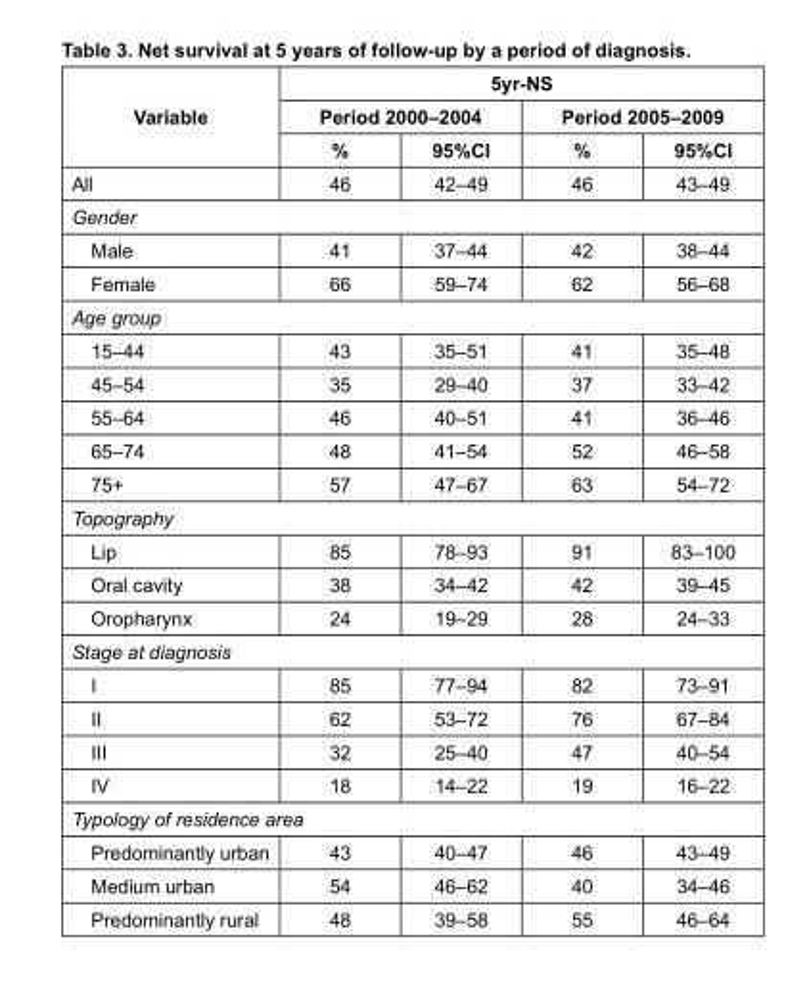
<table><thead><tr><td rowspan="3">Variable</td><td colspan="4">5yr-NS</td></tr><tr><td colspan="2">Period 2000–2004</td><td colspan="2">Period 2005–2009</td></tr><tr><td>%</td><td>95%CI</td><td>%</td><td>95%CI</td></tr></thead><tbody><tr><td>All</td><td>46</td><td>42–49</td><td>46</td><td>43–49</td></tr><tr><td colspan="5">Gender</td></tr><tr><td>Male</td><td>41</td><td>37–44</td><td>42</td><td>38–44</td></tr><tr><td>Female</td><td>66</td><td>59–74</td><td>62</td><td>56–68</td></tr><tr><td colspan="5">Age group</td></tr><tr><td>15–44</td><td>43</td><td>35–51</td><td>41</td><td>35–48</td></tr><tr><td>45–54</td><td>35</td><td>29–40</td><td>37</td><td>33–42</td></tr><tr><td>55–64</td><td>46</td><td>40–51</td><td>41</td><td>36–46</td></tr><tr><td>65–74</td><td>48</td><td>41–54</td><td>52</td><td>46–58</td></tr><tr><td>75+</td><td>57</td><td>47–67</td><td>63</td><td>54–72</td></tr><tr><td colspan="5">Topography</td></tr><tr><td>Lip</td><td>85</td><td>78–93</td><td>91</td><td>83–100</td></tr><tr><td>Oral cavity</td><td>38</td><td>34–42</td><td>42</td><td>39–45</td></tr><tr><td>Oropharynx</td><td>24</td><td>19–29</td><td>28</td><td>24–33</td></tr><tr><td colspan="5">Stage at diagnosis</td></tr><tr><td>I</td><td>85</td><td>77–94</td><td>82</td><td>73–91</td></tr><tr><td>II</td><td>62</td><td>53–72</td><td>76</td><td>67–84</td></tr><tr><td>III</td><td>32</td><td>25–40</td><td>47</td><td>40–54</td></tr><tr><td>IV</td><td>18</td><td>14–22</td><td>19</td><td>16–22</td></tr><tr><td colspan="5">Typology of residence area</td></tr><tr><td>Predominantly urban</td><td>43</td><td>40–47</td><td>46</td><td>43–49</td></tr><tr><td>Medium urban</td><td>54</td><td>46–62</td><td>40</td><td>34–46</td></tr><tr><td>Predominantly rural</td><td>48</td><td>39–58</td><td>55</td><td>46–64</td></tr></tbody></table>